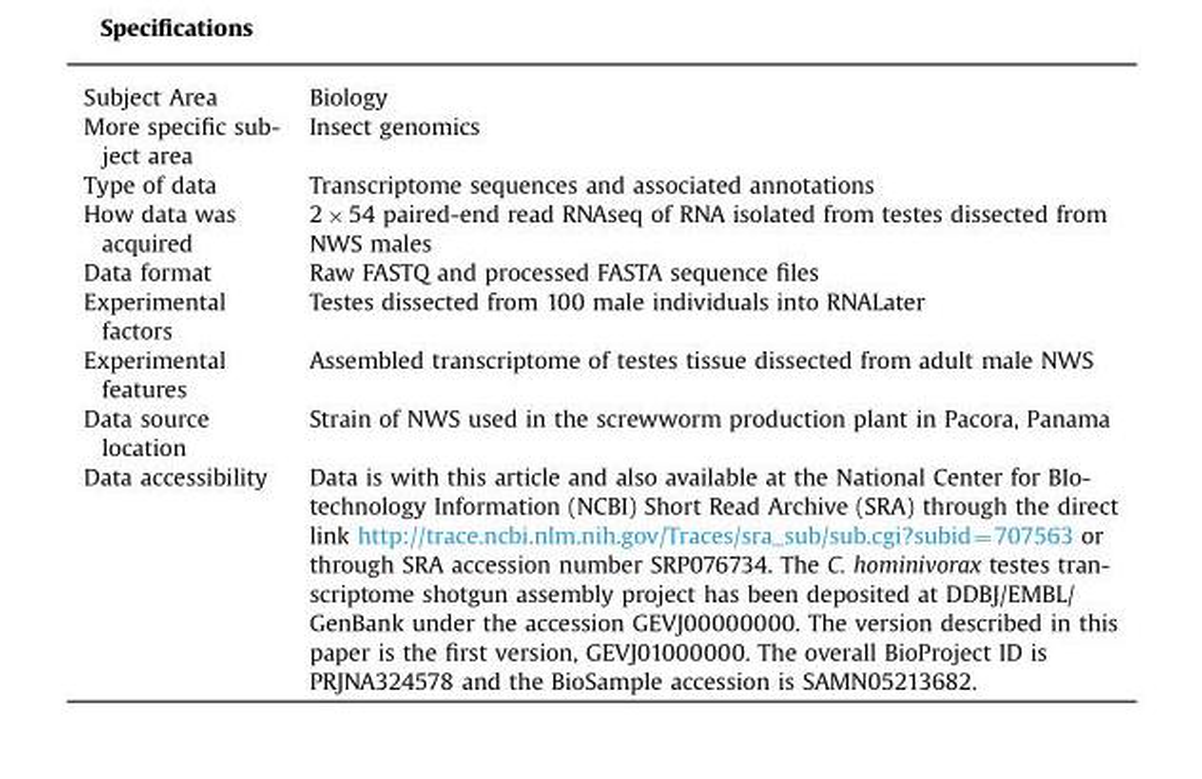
<table><tbody><tr><td>Subject Area</td><td>Biology</td></tr><tr><td>More specific sub- ject area</td><td>Insect genomics</td></tr><tr><td>Type of data</td><td>Transcriptome sequences and associated annotations</td></tr><tr><td>How data was acquired</td><td>2 × 54 paired-end read RNAseq of RNA isolated from testes dissected from NWS males</td></tr><tr><td>Data format</td><td>Raw FASTQ and processed FASTA sequence files</td></tr><tr><td>Experimental factors</td><td>Testes dissected from 100 male individuals into RNALater</td></tr><tr><td>Experimental features</td><td>Assembled transcriptome of testes tissue dissected from adult male NWS</td></tr><tr><td>Data source location</td><td>Strain of NWS used in the screwworm production plant in Pacora, Panama</td></tr><tr><td>Data accessibility</td><td>Data is with this article and also available at the National Center for BIo- technology Information (NCBI) Short Read Archive (SRA) through the direct link http://trace.ncbi.nlm.nih.gov/Traces/sra_sub/sub.cgi?subid¼707563 or through SRA accession number SRP076734. The C. hominivorax testes tran- scriptome shotgun assembly project has been deposited at DDBJ/EMBL/ GenBank under the accession GEVJ00000000. The version described in this paper is the first version, GEVJ01000000. The overall BioProject ID is PRJNA324578 and the BioSample accession is SAMN05213682.</td></tr></tbody></table>